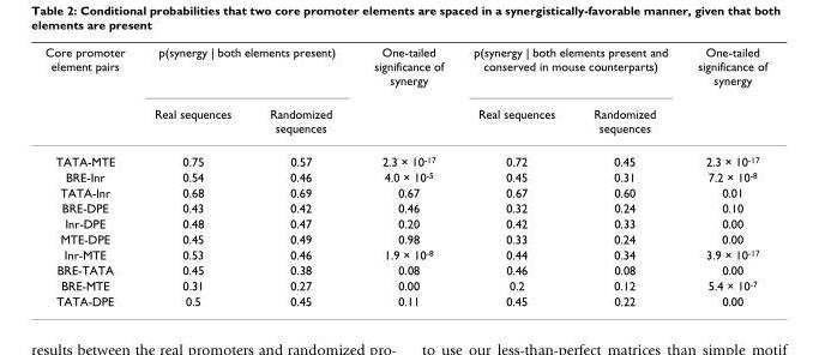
<table><thead><tr><td rowspan="2">Core promoter element pairs</td><td colspan="2">p(synergy | both elements present)</td><td rowspan="2">One-tailed significance of synergy</td><td colspan="2">p(synergy | both elements present and conserved in mouse counterparts)</td><td rowspan="2">One-tailed significance of synergy</td></tr><tr><td>Real sequences</td><td>Randomized sequences</td><td>Real sequences</td><td>Randomized sequences</td></tr></thead><tbody><tr><td>TATA-MTE</td><td>0.75</td><td>0.57</td><td>2.3 × 10-17</td><td>0.72</td><td>0.45</td><td>2.3 × 10-17</td></tr><tr><td>BRE-Inr</td><td>0.54</td><td>0.46</td><td>4.0 × 10-5</td><td>0.45</td><td>0.31</td><td>7.2 × 10-8</td></tr><tr><td>TATA-Inr</td><td>0.68</td><td>0.69</td><td>0.67</td><td>0.67</td><td>0.60</td><td>0.01</td></tr><tr><td>BRE-DPE</td><td>0.43</td><td>0.42</td><td>0.46</td><td>0.32</td><td>0.24</td><td>0.10</td></tr><tr><td>Inr-DPE</td><td>0.48</td><td>0.47</td><td>0.20</td><td>0.42</td><td>0.33</td><td>0.00</td></tr><tr><td>MTE-DPE</td><td>0.45</td><td>0.49</td><td>0.98</td><td>0.33</td><td>0.24</td><td>0.00</td></tr><tr><td>Inr-MTE</td><td>0.53</td><td>0.46</td><td>1.9 × 10-8</td><td>0.44</td><td>0.34</td><td>3.9 × 10-17</td></tr><tr><td>BRE-TATA</td><td>0.45</td><td>0.38</td><td>0.08</td><td>0.46</td><td>0.08</td><td>0.00</td></tr><tr><td>BRE-MTE</td><td>0.31</td><td>0.27</td><td>0.00</td><td>0.2</td><td>0.12</td><td>5.4 × 10-7</td></tr><tr><td>TATA-DPE</td><td>0.5</td><td>0.45</td><td>0.11</td><td>0.45</td><td>0.22</td><td>0.00</td></tr></tbody></table>